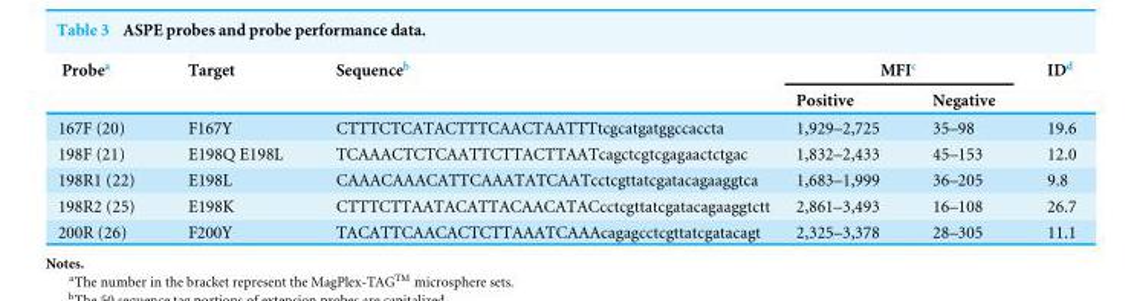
<table><thead><tr><td rowspan="2">Probe<sup>a</sup></td><td rowspan="2">Target</td><td rowspan="2">Sequence<sup>b</sup></td><td colspan="2">MFI<sup>c</sup></td><td rowspan="2">ID<sup>d</sup></td></tr><tr><td>Positive</td><td>Negative</td></tr></thead><tbody><tr><td>167F (20)</td><td>F167Y</td><td>CTTTCTCATACTTTCAACTAATTTtcgcatgatggccaccta</td><td>1,929–2,725</td><td>35–98</td><td>19.6</td></tr><tr><td>198F (21)</td><td>E198Q E198L</td><td>TCAAACTCTCAATTCTTACTTAATcagctcgtcgagaactctgac</td><td>1,832–2,433</td><td>45–153</td><td>12.0</td></tr><tr><td>198R1 (22)</td><td>E198L</td><td>CAAACAAACATTCAAATATCAATcctcgttatcgatacagaaggtca</td><td>1,683–1,999</td><td>36–205</td><td>9.8</td></tr><tr><td>198R2 (25)</td><td>E198K</td><td>CTTTCTTAATACATTACAACATACcctcgttatcgatacagaaggtctt</td><td>2,861–3,493</td><td>16–108</td><td>26.7</td></tr><tr><td>200R (26)</td><td>F200Y</td><td>TACATTCAACACTCTTAAATCAAAcagagcctcgttatcgatacagt</td><td>2,325–3,378</td><td>28–305</td><td>11.1</td></tr></tbody></table>